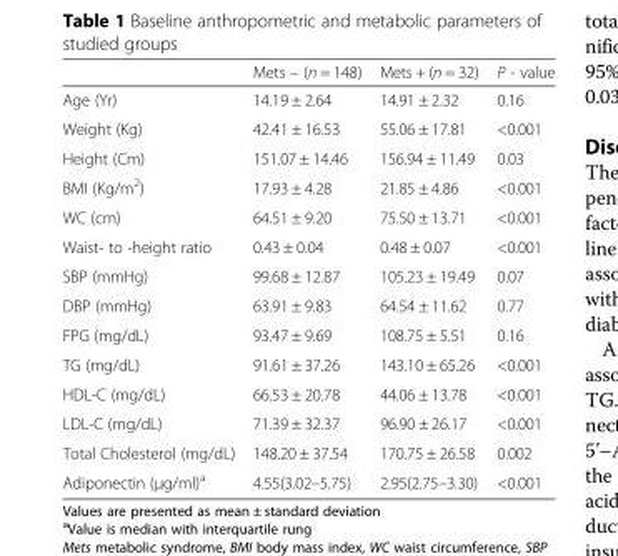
<table><thead><tr><td></td><td>Mets – (n = 148)</td><td>Mets + (n = 32)</td><td>P - value</td></tr></thead><tbody><tr><td>Age (Yr)</td><td>14.19 ± 2.64</td><td>14.91 ± 2.32</td><td>0.16</td></tr><tr><td>Weight (Kg)</td><td>42.41 ± 16.53</td><td>55.06 ± 17.81</td><td>&lt;0.001</td></tr><tr><td>Height (Cm)</td><td>151.07 ± 14.46</td><td>156.94 ± 11.49</td><td>0.03</td></tr><tr><td>BMI (Kg/m<sup>2</sup>)</td><td>17.93 ± 4.28</td><td>21.85 ± 4.86</td><td>&lt;0.001</td></tr><tr><td>WC (cm)</td><td>64.51 ± 9.20</td><td>75.50 ± 13.71</td><td>&lt;0.001</td></tr><tr><td>Waist- to -height ratio</td><td>0.43 ± 0.04</td><td>0.48 ± 0.07</td><td>&lt;0.001</td></tr><tr><td>SBP (mmHg)</td><td>99.68 ± 12.87</td><td>105.23 ± 19.49</td><td>0.07</td></tr><tr><td>DBP (mmHg)</td><td>63.91 ± 9.83</td><td>64.54 ± 11.62</td><td>0.77</td></tr><tr><td>FPG (mg/dL)</td><td>93.47 ± 9.69</td><td>108.75 ± 5.51</td><td>0.16</td></tr><tr><td>TG (mg/dL)</td><td>91.61 ± 37.26</td><td>143.10 ± 65.26</td><td>&lt;0.001</td></tr><tr><td>HDL-C (mg/dL)</td><td>66.53 ± 20.78</td><td>44.06 ± 13.78</td><td>&lt;0.001</td></tr><tr><td>LDL-C (mg/dL)</td><td>71.39 ± 32.37</td><td>96.90 ± 26.17</td><td>&lt;0.001</td></tr><tr><td>Total Cholesterol (mg/dL)</td><td>148.20 ± 37.54</td><td>170.75 ± 26.58</td><td>0.002</td></tr><tr><td>Adiponectin (μg/ml)<sup>a</sup></td><td>4.55(3.02–5.75)</td><td>2.95(2.75–3.30)</td><td>&lt;0.001</td></tr></tbody></table>